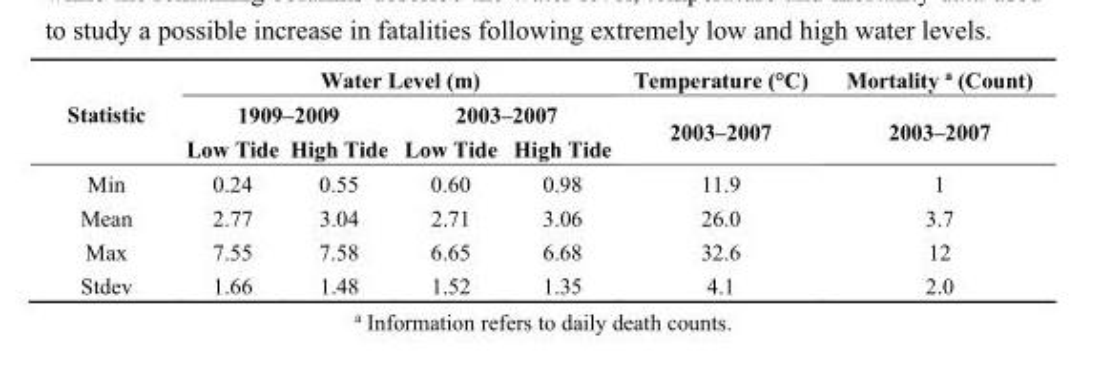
<table><thead><tr><td rowspan="3">Statistic</td><td colspan="4">Water Level (m)</td><td rowspan="3">Temperature (°C) 2003–2007</td><td rowspan="3">Mortality <sup>a</sup> (Count) 2003–2007</td></tr><tr><td colspan="2">1909–2009</td><td colspan="2">2003–2007</td></tr><tr><td>Low Tide</td><td>High Tide</td><td>Low Tide</td><td>High Tide</td></tr></thead><tbody><tr><td>Min</td><td>0.24</td><td>0.55</td><td>0.60</td><td>0.98</td><td>11.9</td><td>1</td></tr><tr><td>Mean</td><td>2.77</td><td>3.04</td><td>2.71</td><td>3.06</td><td>26.0</td><td>3.7</td></tr><tr><td>Max</td><td>7.55</td><td>7.58</td><td>6.65</td><td>6.68</td><td>32.6</td><td>12</td></tr><tr><td>Stdev</td><td>1.66</td><td>1.48</td><td>1.52</td><td>1.35</td><td>4.1</td><td>2.0</td></tr></tbody></table>